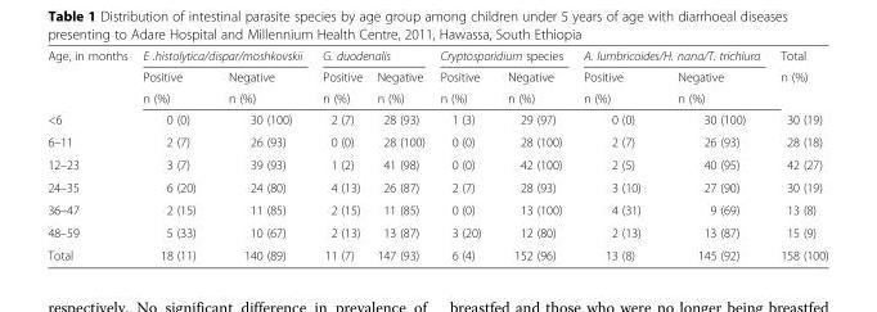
<table><thead><tr><td rowspan="3">Age, in months</td><td colspan="2">E .histolytica/dispar/moshkovskii</td><td colspan="2">G. duodenalis</td><td colspan="2">Cryptosporidium species</td><td colspan="2">A. lumbricoides/H. nana/T. trichiura</td><td rowspan="3">Total n (%)</td></tr><tr><td rowspan="2">Positive n (%)</td><td rowspan="2">Negative n (%)</td><td rowspan="2">Positive n (%)</td><td rowspan="2">Negative n (%)</td><td rowspan="2">Positive n (%)</td><td rowspan="2">Negative n (%)</td><td rowspan="2">Positive n (%)</td><td rowspan="2">Negative n (%)</td></tr><tr></tr></thead><tbody><tr><td>&lt;6</td><td>0 (0)</td><td>30 (100)</td><td>2 (7)</td><td>28 (93)</td><td>1 (3)</td><td>29 (97)</td><td>0 (0)</td><td>30 (100)</td><td>30 (19)</td></tr><tr><td>6–11</td><td>2 (7)</td><td>26 (93)</td><td>0 (0)</td><td>28 (100)</td><td>0 (0)</td><td>28 (100)</td><td>2 (7)</td><td>26 (93)</td><td>28 (18)</td></tr><tr><td>12–23</td><td>3 (7)</td><td>39 (93)</td><td>1 (2)</td><td>41 (98)</td><td>0 (0)</td><td>42 (100)</td><td>2 (5)</td><td>40 (95)</td><td>42 (27)</td></tr><tr><td>24–35</td><td>6 (20)</td><td>24 (80)</td><td>4 (13)</td><td>26 (87)</td><td>2 (7)</td><td>28 (93)</td><td>3 (10)</td><td>27 (90)</td><td>30 (19)</td></tr><tr><td>36–47</td><td>2 (15)</td><td>11 (85)</td><td>2 (15)</td><td>11 (85)</td><td>0 (0)</td><td>13 (100)</td><td>4 (31)</td><td>9 (69)</td><td>13 (8)</td></tr><tr><td>48–59</td><td>5 (33)</td><td>10 (67)</td><td>2 (13)</td><td>13 (87)</td><td>3 (20)</td><td>12 (80)</td><td>2 (13)</td><td>13 (87)</td><td>15 (9)</td></tr><tr><td>Total</td><td>18 (11)</td><td>140 (89)</td><td>11 (7)</td><td>147 (93)</td><td>6 (4)</td><td>152 (96)</td><td>13 (8)</td><td>145 (92)</td><td>158 (100)</td></tr></tbody></table>